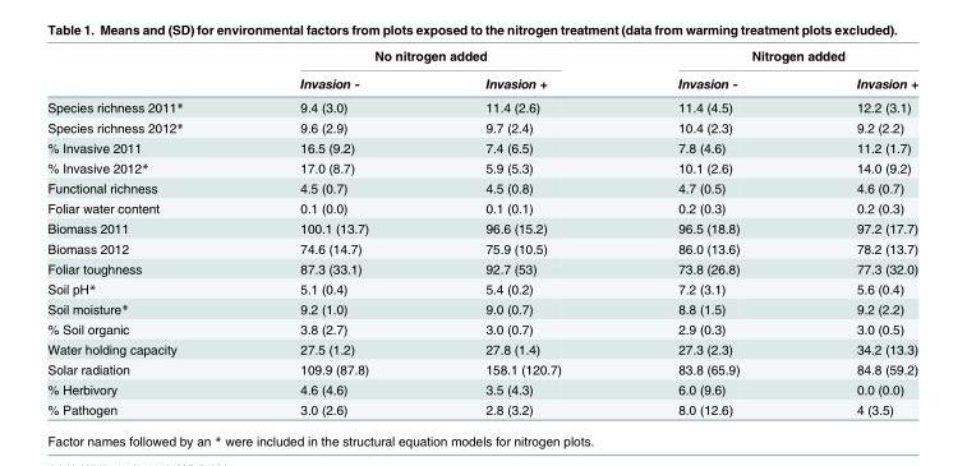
<table><thead><tr><td rowspan="2"></td><td colspan="2">No nitrogen added</td><td colspan="2">Nitrogen added</td></tr><tr><td>Invasion -</td><td>Invasion +</td><td>Invasion -</td><td>Invasion +</td></tr></thead><tbody><tr><td>Species richness 2011*</td><td>9.4 (3.0)</td><td>11.4 (2.6)</td><td>11.4 (4.5)</td><td>12.2 (3.1)</td></tr><tr><td>Species richness 2012*</td><td>9.6 (2.9)</td><td>9.7 (2.4)</td><td>10.4 (2.3)</td><td>9.2 (2.2)</td></tr><tr><td>% Invasive 2011</td><td>16.5 (9.2)</td><td>7.4 (6.5)</td><td>7.8 (4.6)</td><td>11.2 (1.7)</td></tr><tr><td>% Invasive 2012*</td><td>17.0 (8.7)</td><td>5.9 (5.3)</td><td>10.1 (2.6)</td><td>14.0 (9.2)</td></tr><tr><td>Functional richness</td><td>4.5 (0.7)</td><td>4.5 (0.8)</td><td>4.7 (0.5)</td><td>4.6 (0.7)</td></tr><tr><td>Foliar water content</td><td>0.1 (0.0)</td><td>0.1 (0.1)</td><td>0.2 (0.3)</td><td>0.2 (0.3)</td></tr><tr><td>Biomass 2011</td><td>100.1 (13.7)</td><td>96.6 (15.2)</td><td>96.5 (18.8)</td><td>97.2 (17.7)</td></tr><tr><td>Biomass 2012</td><td>74.6 (14.7)</td><td>75.9 (10.5)</td><td>86.0 (13.6)</td><td>78.2 (13.7)</td></tr><tr><td>Foliar toughness</td><td>87.3 (33.1)</td><td>92.7 (53)</td><td>73.8 (26.8)</td><td>77.3 (32.0)</td></tr><tr><td>Soil pH*</td><td>5.1 (0.4)</td><td>5.4 (0.2)</td><td>7.2 (3.1)</td><td>5.6 (0.4)</td></tr><tr><td>Soil moisture*</td><td>9.2 (1.0)</td><td>9.0 (0.7)</td><td>8.8 (1.5)</td><td>9.2 (2.2)</td></tr><tr><td>% Soil organic</td><td>3.8 (2.7)</td><td>3.0 (0.7)</td><td>2.9 (0.3)</td><td>3.0 (0.5)</td></tr><tr><td>Water holding capacity</td><td>27.5 (1.2)</td><td>27.8 (1.4)</td><td>27.3 (2.3)</td><td>34.2 (13.3)</td></tr><tr><td>Solar radiation</td><td>109.9 (87.8)</td><td>158.1 (120.7)</td><td>83.8 (65.9)</td><td>84.8 (59.2)</td></tr><tr><td>% Herbivory</td><td>4.6 (4.6)</td><td>3.5 (4.3)</td><td>6.0 (9.6)</td><td>0.0 (0.0)</td></tr><tr><td>% Pathogen</td><td>3.0 (2.6)</td><td>2.8 (3.2)</td><td>8.0 (12.6)</td><td>4 (3.5)</td></tr></tbody></table>